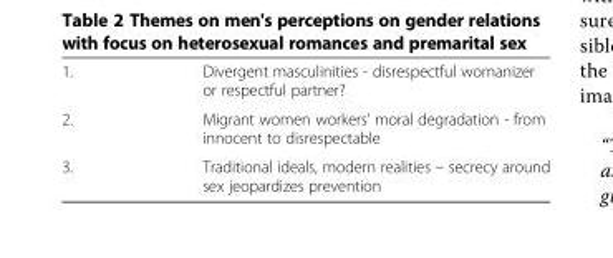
<table><tbody><tr><td>1.</td><td>Divergent masculinities - disrespectful womanizer or respectful partner?</td></tr><tr><td>2.</td><td>Migrant women workers’ moral degradation - from innocent to disrespectable</td></tr><tr><td>3.</td><td>Traditional ideals, modern realities – secrecy around sex jeopardizes prevention</td></tr></tbody></table>